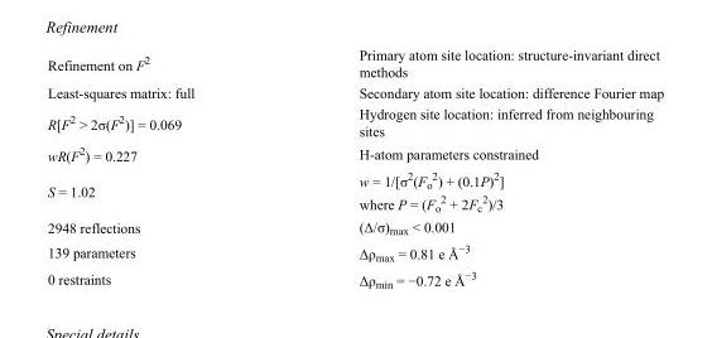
<table><tbody><tr><td>Refinement on F<sup>2</sup></td><td>Primary atom site location: structure-invariant direct methods</td></tr><tr><td>Least-squares matrix: full</td><td>Secondary atom site location: difference Fourier map</td></tr><tr><td>R[F<sup>2</sup> &gt; 2σ(F<sup>2</sup>)] = 0.069</td><td>Hydrogen site location: inferred from neighbouring sites</td></tr><tr><td>wR(F<sup>2</sup>) = 0.227</td><td>H-atom parameters constrained</td></tr><tr><td>S = 1.02</td><td>w = 1/[σ<sup>2</sup>(F<sub>o</sub> <sup>2</sup>) + (0.1P)<sup>2</sup>] where P = (F<sub>o</sub> <sup>2</sup> + 2F<sub>c</sub> <sup>2</sup>)/3</td></tr><tr><td>2948 reflections</td><td>(Δ/σ)<sub>max</sub> &lt; 0.001</td></tr><tr><td>139 parameters</td><td>Δρ<sub>max</sub> = 0.81 e Å<sup>−3</sup></td></tr><tr><td>0 restraints</td><td>Δρ<sub>min</sub> = −0.72 e Å<sup>−3</sup></td></tr></tbody></table>